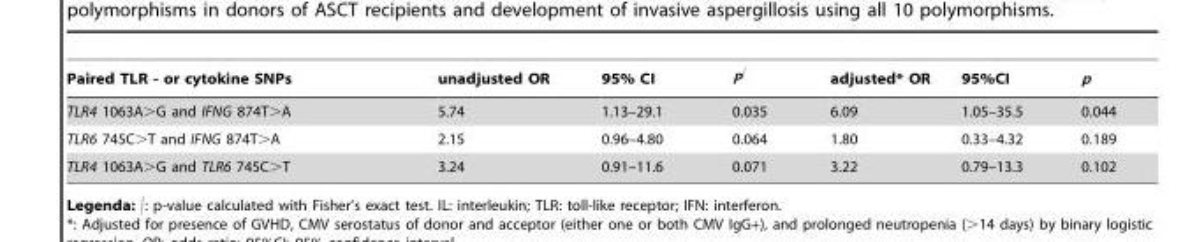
<table><thead><tr><td>Paired TLR - or cytokine SNPs</td><td>unadjusted OR</td><td>95% CI</td><td>P<sup>∫</sup></td><td>adjusted* OR</td><td>95%CI</td><td>p</td></tr></thead><tbody><tr><td>TLR4 1063A&gt;G and IFNG 874T&gt;A</td><td>5.74</td><td>1.13–29.1</td><td>0.035</td><td>6.09</td><td>1.05–35.5</td><td>0.044</td></tr><tr><td>TLR6 745C&gt;T and IFNG 874T&gt;A</td><td>2.15</td><td>0.96–4.80</td><td>0.064</td><td>1.80</td><td>0.33–4.32</td><td>0.189</td></tr><tr><td>TLR4 1063A&gt;G and TLR6 745C&gt;T</td><td>3.24</td><td>0.91–11.6</td><td>0.071</td><td>3.22</td><td>0.79–13.3</td><td>0.102</td></tr></tbody></table>